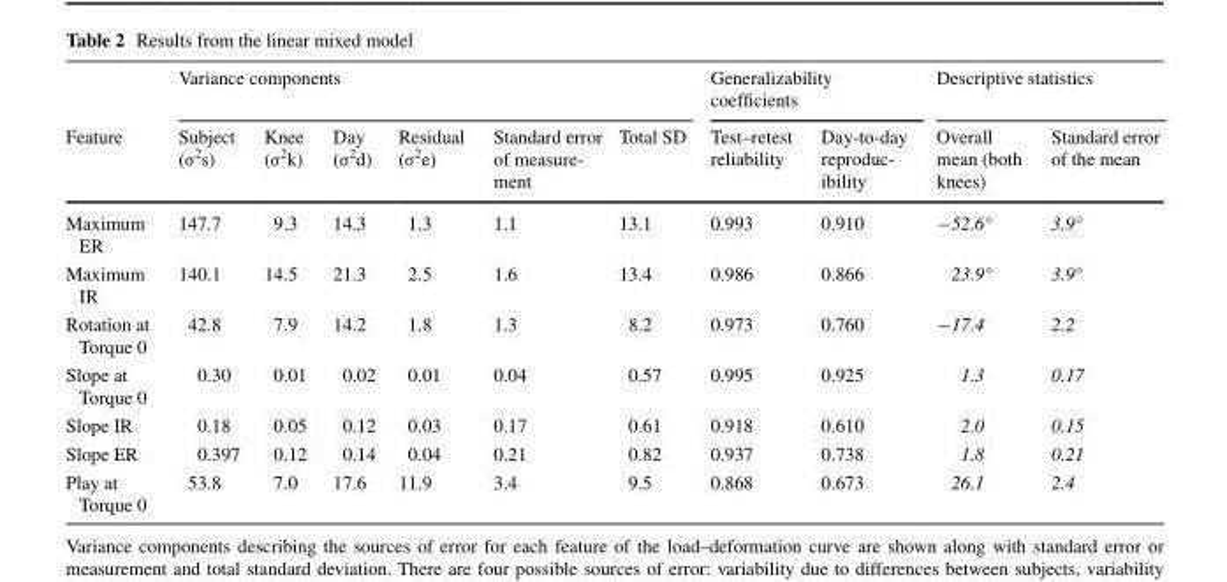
<table><thead><tr><td rowspan="2">Feature</td><td colspan="6">Variance components</td><td colspan="2">Generalizability coefficients</td><td colspan="2">Descriptive statistics</td></tr><tr><td>Subject (σ<sup>2</sup>s)</td><td>Knee (σ<sup>2</sup>k)</td><td>Day (σ<sup>2</sup>d)</td><td>Residual (σ<sup>2</sup>e)</td><td>Standard error of measure- ment</td><td>Total SD</td><td>Test–retest reliability</td><td>Day-to-day reproduc- ibility</td><td>Overall mean (both knees)</td><td>Standard error of the mean</td></tr></thead><tbody><tr><td>Maximum ER</td><td>147.7</td><td>9.3</td><td>14.3</td><td>1.3</td><td>1.1</td><td>13.1</td><td>0.993</td><td>0.910</td><td>−52.6°</td><td>3.9°</td></tr><tr><td>Maximum IR</td><td>140.1</td><td>14.5</td><td>21.3</td><td>2.5</td><td>1.6</td><td>13.4</td><td>0.986</td><td>0.866</td><td>23.9°</td><td>3.9°</td></tr><tr><td>Rotation at Torque 0</td><td>42.8</td><td>7.9</td><td>14.2</td><td>1.8</td><td>1.3</td><td>8.2</td><td>0.973</td><td>0.760</td><td>−17.4</td><td>2.2</td></tr><tr><td>Slope at Torque 0</td><td>0.30</td><td>0.01</td><td>0.02</td><td>0.01</td><td>0.04</td><td>0.57</td><td>0.995</td><td>0.925</td><td>1.3</td><td>0.17</td></tr><tr><td>Slope IR</td><td>0.18</td><td>0.05</td><td>0.12</td><td>0.03</td><td>0.17</td><td>0.61</td><td>0.918</td><td>0.610</td><td>2.0</td><td>0.15</td></tr><tr><td>Slope ER</td><td>0.397</td><td>0.12</td><td>0.14</td><td>0.04</td><td>0.21</td><td>0.82</td><td>0.937</td><td>0.738</td><td>1.8</td><td>0.21</td></tr><tr><td>Play at Torque 0</td><td>53.8</td><td>7.0</td><td>17.6</td><td>11.9</td><td>3.4</td><td>9.5</td><td>0.868</td><td>0.673</td><td>26.1</td><td>2.4</td></tr></tbody></table>